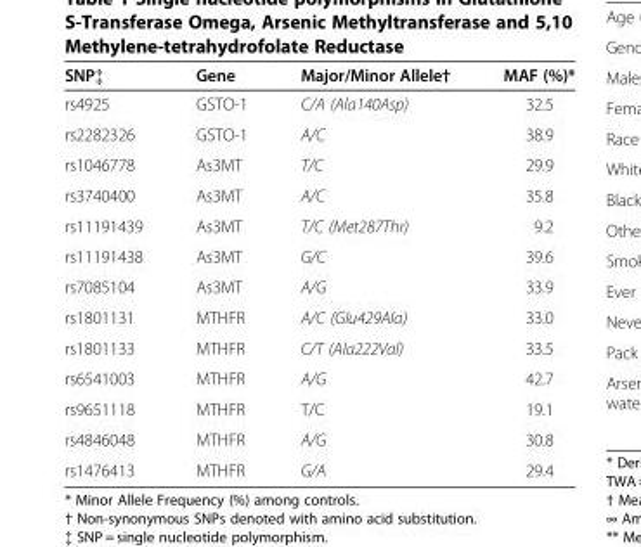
<table><thead><tr><td>SNP‡</td><td>Gene</td><td>Major/Minor Allele†</td><td>MAF (%)*</td></tr></thead><tbody><tr><td>rs4925</td><td>GSTO-1</td><td>C/A (Ala140Asp)</td><td>32.5</td></tr><tr><td>rs2282326</td><td>GSTO-1</td><td>A/C</td><td>38.9</td></tr><tr><td>rs1046778</td><td>As3MT</td><td>T/C</td><td>29.9</td></tr><tr><td>rs3740400</td><td>As3MT</td><td>A/C</td><td>35.8</td></tr><tr><td>rs11191439</td><td>As3MT</td><td>T/C (Met287Thr)</td><td>9.2</td></tr><tr><td>rs11191438</td><td>As3MT</td><td>G/C</td><td>39.6</td></tr><tr><td>rs7085104</td><td>As3MT</td><td>A/G</td><td>33.9</td></tr><tr><td>rs1801131</td><td>MTHFR</td><td>A/C (Glu429Ala)</td><td>33.0</td></tr><tr><td>rs1801133</td><td>MTHFR</td><td>C/T (Ala222Val)</td><td>33.5</td></tr><tr><td>rs6541003</td><td>MTHFR</td><td>A/G</td><td>42.7</td></tr><tr><td>rs9651118</td><td>MTHFR</td><td>T/C</td><td>19.1</td></tr><tr><td>rs4846048</td><td>MTHFR</td><td>A/G</td><td>30.8</td></tr><tr><td>rs1476413</td><td>MTHFR</td><td>G/A</td><td>29.4</td></tr></tbody></table>